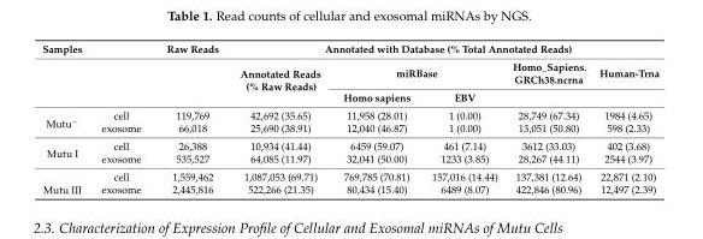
<table><thead><tr><td rowspan="3">Samples</td><td rowspan="3"></td><td rowspan="3">Raw Reads</td><td colspan="5">Annotated with Database (% Total Annotated Reads)</td></tr><tr><td rowspan="2">Annotated Reads (% Raw Reads)</td><td colspan="2">miRBase</td><td rowspan="2">Homo_Sapiens. GRCh38.ncrna</td><td rowspan="2">Human-Trna</td></tr><tr><td>Homo sapiens</td><td>EBV</td></tr></thead><tbody><tr><td rowspan="2">Mutu<sup>−</sup></td><td>cell</td><td>119,769</td><td>42,692 (35.65)</td><td>11,958 (28.01)</td><td>1 (0.00)</td><td>28,749 (67.34)</td><td>1984 (4.65)</td></tr><tr><td>exosome</td><td>66,018</td><td>25,690 (38.91)</td><td>12,040 (46.87)</td><td>1 (0.00)</td><td>13,051 (50.80)</td><td>598 (2.33)</td></tr><tr><td rowspan="2">Mutu I</td><td>cell</td><td>26,388</td><td>10,934 (41.44)</td><td>6459 (59.07)</td><td>461 (7.14)</td><td>3612 (33.03)</td><td>402 (3.68)</td></tr><tr><td>exosome</td><td>535,527</td><td>64,085 (11.97)</td><td>32,041 (50.00)</td><td>1233 (3.85)</td><td>28,267 (44.11)</td><td>2544 (3.97)</td></tr><tr><td rowspan="2">Mutu III</td><td>cell</td><td>1,559,462</td><td>1,087,053 (69.71)</td><td>769,785 (70.81)</td><td>157,016 (14.44)</td><td>137,381 (12.64)</td><td>22,871 (2.10)</td></tr><tr><td>exosome</td><td>2,445,816</td><td>522,266 (21.35)</td><td>80,434 (15.40)</td><td>6489 (8.07)</td><td>422,846 (80.96)</td><td>12,497 (2.39)</td></tr></tbody></table>